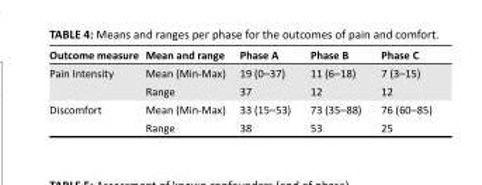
<table><thead><tr><td>Outcome measure</td><td>Mean and range</td><td>Phase A</td><td>Phase B</td><td>Phase C</td></tr></thead><tbody><tr><td rowspan="2">Pain Intensity</td><td>Mean (Min-Max)</td><td>19 (0–37)</td><td>11 (6–18)</td><td>7 (3–15)</td></tr><tr><td>Range</td><td>37</td><td>12</td><td>12</td></tr><tr><td rowspan="2">Discomfort</td><td>Mean (Min-Max)</td><td>33 (15–53)</td><td>73 (35–88)</td><td>76 (60–85)</td></tr><tr><td>Range</td><td>38</td><td>53</td><td>25</td></tr></tbody></table>